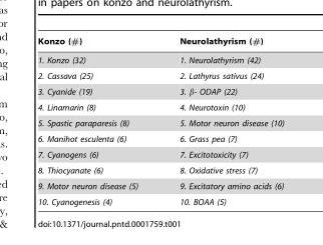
<table><thead><tr><td>Konzo (#)</td><td>Neurolathyrism (#)</td></tr></thead><tbody><tr><td>1. Konzo (32)</td><td>1. Neurolathyrism (42)</td></tr><tr><td>2. Cassava (25)</td><td>2. Lathyrus sativus (24)</td></tr><tr><td>3. Cyanide (19)</td><td>3. β- ODAP (22)</td></tr><tr><td>4. Linamarin (8)</td><td>4. Neurotoxin (10)</td></tr><tr><td>5. Spastic paraparesis (8)</td><td>5. Motor neuron disease (10)</td></tr><tr><td>6. Manihot esculenta (6)</td><td>6. Grass pea (7)</td></tr><tr><td>7. Cyanogens (6)</td><td>7. Excitotoxicity (7)</td></tr><tr><td>8. Thiocyanate (6)</td><td>8. Oxidative stress (7)</td></tr><tr><td>9. Motor neuron disease (5)</td><td>9. Excitatory amino acids (6)</td></tr><tr><td>10. Cyanogenesis (4)</td><td>10. BOAA (5)</td></tr></tbody></table>